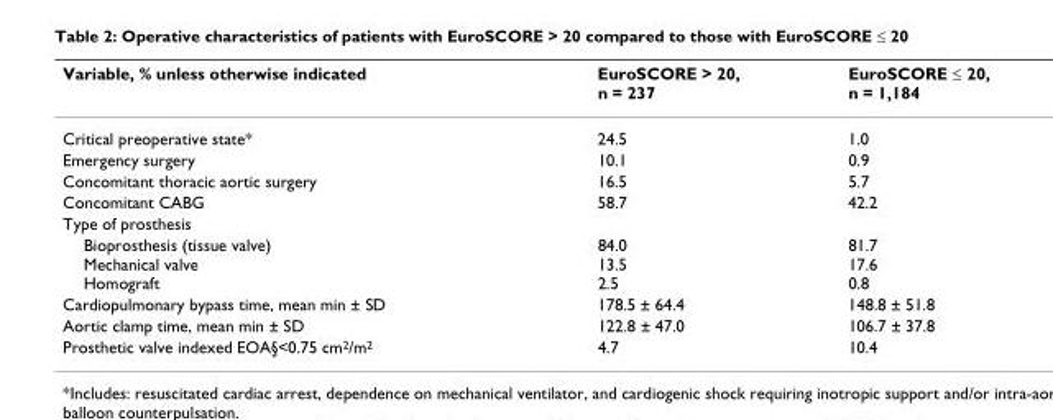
<table><thead><tr><td>Variable, % unless otherwise indicated</td><td>EuroSCORE &gt; 20, n = 237</td><td>EuroSCORE ≤ 20, n = 1,184</td></tr></thead><tbody><tr><td>Critical preoperative state*</td><td>24.5</td><td>1.0</td></tr><tr><td>Emergency surgery</td><td>10.1</td><td>0.9</td></tr><tr><td>Concomitant thoracic aortic surgery</td><td>16.5</td><td>5.7</td></tr><tr><td>Concomitant CABG</td><td>58.7</td><td>42.2</td></tr><tr><td colspan="3">Type of prosthesis</td></tr><tr><td>Bioprosthesis (tissue valve) Mechanical valve Homograft</td><td>84.0 13.5 2.5</td><td>81.7 17.6 0.8</td></tr><tr><td>Cardiopulmonary bypass time, mean min ± SD</td><td>178.5 ± 64.4</td><td>148.8 ± 51.8</td></tr><tr><td>Aortic clamp time, mean min ± SD</td><td>122.8 ± 47.0</td><td>106.7 ± 37.8</td></tr><tr><td>Prosthetic valve indexed EOA§&lt;0.75 cm<sup>2</sup>/m<sup>2</sup></td><td>4.7</td><td>10.4</td></tr></tbody></table>